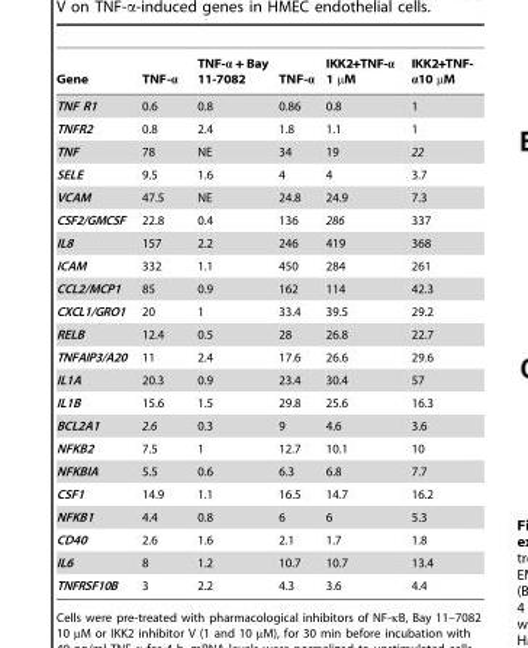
<table><thead><tr><td>Gene</td><td>TNF-α</td><td>TNF-α + Bay 11-7082</td><td>TNF-α</td><td>IKK2+TNF-α 1 µM</td><td>IKK2+TNF- α10 µM</td></tr></thead><tbody><tr><td>TNF R1</td><td>0.6</td><td>0.8</td><td>0.86</td><td>0.8</td><td>1</td></tr><tr><td>TNFR2</td><td>0.8</td><td>2.4</td><td>1.8</td><td>1.1</td><td>1</td></tr><tr><td>TNF</td><td>78</td><td>NE</td><td>34</td><td>19</td><td>22</td></tr><tr><td>SELE</td><td>9.5</td><td>1.6</td><td>4</td><td>4</td><td>3.7</td></tr><tr><td>VCAM</td><td>47.5</td><td>NE</td><td>24.8</td><td>24.9</td><td>7.3</td></tr><tr><td>CSF2/GMCSF</td><td>22.8</td><td>0.4</td><td>136</td><td>286</td><td>337</td></tr><tr><td>IL8</td><td>157</td><td>2.2</td><td>246</td><td>419</td><td>368</td></tr><tr><td>ICAM</td><td>332</td><td>1.1</td><td>450</td><td>284</td><td>261</td></tr><tr><td>CCL2/MCP1</td><td>85</td><td>0.9</td><td>162</td><td>114</td><td>42.3</td></tr><tr><td>CXCL1/GRO1</td><td>20</td><td>1</td><td>33.4</td><td>39.5</td><td>29.2</td></tr><tr><td>RELB</td><td>12.4</td><td>0.5</td><td>28</td><td>26.8</td><td>22.7</td></tr><tr><td>TNFAIP3/A20</td><td>11</td><td>2.4</td><td>17.6</td><td>26.6</td><td>29.6</td></tr><tr><td>IL1A</td><td>20.3</td><td>0.9</td><td>23.4</td><td>30.4</td><td>57</td></tr><tr><td>IL1B</td><td>15.6</td><td>1.5</td><td>29.8</td><td>25.6</td><td>16.3</td></tr><tr><td>BCL2A1</td><td>2.6</td><td>0.3</td><td>9</td><td>4.6</td><td>3.6</td></tr><tr><td>NFKB2</td><td>7.5</td><td>1</td><td>12.7</td><td>10.1</td><td>10</td></tr><tr><td>NFKBIA</td><td>5.5</td><td>0.6</td><td>6.3</td><td>6.8</td><td>7.7</td></tr><tr><td>CSF1</td><td>14.9</td><td>1.1</td><td>16.5</td><td>14.7</td><td>16.2</td></tr><tr><td>NFKB1</td><td>4.4</td><td>0.8</td><td>6</td><td>6</td><td>5.3</td></tr><tr><td>CD40</td><td>2.6</td><td>1.6</td><td>2.1</td><td>1.7</td><td>1.8</td></tr><tr><td>IL6</td><td>8</td><td>1.2</td><td>10.7</td><td>10.7</td><td>13.4</td></tr><tr><td>TNFRSF10B</td><td>3</td><td>2.2</td><td>4.3</td><td>3.6</td><td>4.4</td></tr></tbody></table>